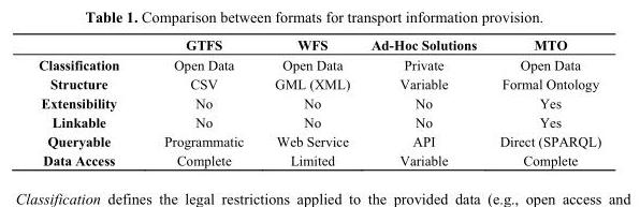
<table><thead><tr><td></td><td>GTFS</td><td>WFS</td><td>Ad-Hoc Solutions</td><td>MTO</td></tr></thead><tbody><tr><td>Classification</td><td>Open Data</td><td>Open Data</td><td>Private</td><td>Open Data</td></tr><tr><td>Structure</td><td>CSV</td><td>GML (XML)</td><td>Variable</td><td>Formal Ontology</td></tr><tr><td>Extensibility</td><td>No</td><td>No</td><td>No</td><td>Yes</td></tr><tr><td>Linkable</td><td>No</td><td>No</td><td>No</td><td>Yes</td></tr><tr><td>Queryable</td><td>Programmatic</td><td>Web Service</td><td>API</td><td>Direct (SPARQL)</td></tr><tr><td>Data Access</td><td>Complete</td><td>Limited</td><td>Variable</td><td>Complete</td></tr></tbody></table>